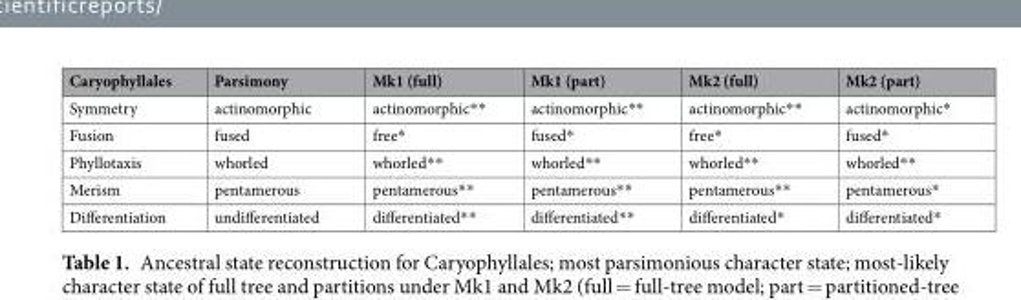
<table><thead><tr><td>Caryophyllales</td><td>Parsimony</td><td>Mk1 (full)</td><td>Mk1 (part)</td><td>Mk2 (full)</td><td>Mk2 (part)</td></tr></thead><tbody><tr><td>Symmetry</td><td>actinomorphic</td><td>actinomorphic**</td><td>actinomorphic**</td><td>actinomorphic**</td><td>actinomorphic*</td></tr><tr><td>Fusion</td><td>fused</td><td>free*</td><td>fused*</td><td>free*</td><td>fused*</td></tr><tr><td>Phyllotaxis</td><td>whorled</td><td>whorled**</td><td>whorled**</td><td>whorled**</td><td>whorled**</td></tr><tr><td>Merism</td><td>pentamerous</td><td>pentamerous**</td><td>pentamerous**</td><td>pentamerous**</td><td>pentamerous*</td></tr><tr><td>Differentiation</td><td>undifferentiated</td><td>differentiated**</td><td>differentiated**</td><td>differentiated*</td><td>differentiated*</td></tr></tbody></table>